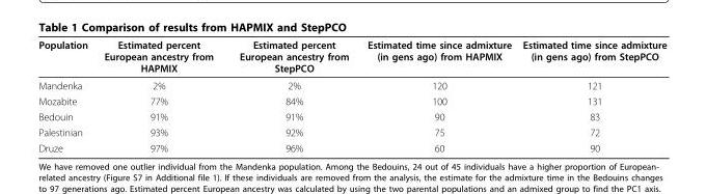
<table><thead><tr><td>Population</td><td>Estimated percent European ancestry from HAPMIX</td><td>Estimated percent European ancestry from StepPCO</td><td>Estimated time since admixture (in gens ago) from HAPMIX</td><td>Estimated time since admixture (in gens ago) from StepPCO</td></tr></thead><tbody><tr><td>Mandenka</td><td>2%</td><td>2%</td><td>120</td><td>121</td></tr><tr><td>Mozabite</td><td>77%</td><td>84%</td><td>100</td><td>131</td></tr><tr><td>Bedouin</td><td>91%</td><td>91%</td><td>90</td><td>83</td></tr><tr><td>Palestinian</td><td>93%</td><td>92%</td><td>75</td><td>72</td></tr><tr><td>Druze</td><td>97%</td><td>96%</td><td>60</td><td>90</td></tr></tbody></table>